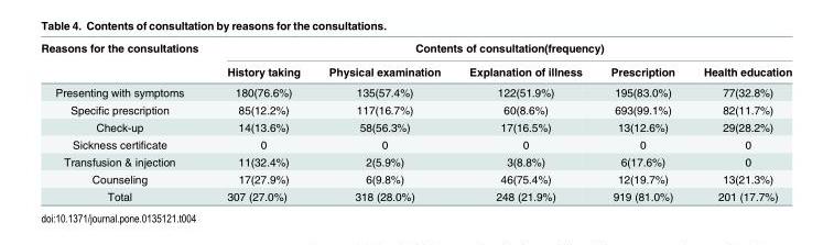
<table><thead><tr><td rowspan="2">Reasons for the consultations</td><td colspan="5">Contents of consultation(frequency)</td></tr><tr><td>History taking</td><td>Physical examination</td><td>Explanation of illness</td><td>Prescription</td><td>Health education</td></tr></thead><tbody><tr><td>Presenting with symptoms</td><td>180(76.6%)</td><td>135(57.4%)</td><td>122(51.9%)</td><td>195(83.0%)</td><td>77(32.8%)</td></tr><tr><td>Specific prescription</td><td>85(12.2%)</td><td>117(16.7%)</td><td>60(8.6%)</td><td>693(99.1%)</td><td>82(11.7%)</td></tr><tr><td>Check-up</td><td>14(13.6%)</td><td>58(56.3%)</td><td>17(16.5%)</td><td>13(12.6%)</td><td>29(28.2%)</td></tr><tr><td>Sickness certificate</td><td>0</td><td>0</td><td>0</td><td>0</td><td>0</td></tr><tr><td>Transfusion &amp; injection</td><td>11(32.4%)</td><td>2(5.9%)</td><td>3(8.8%)</td><td>6(17.6%)</td><td>0</td></tr><tr><td>Counseling</td><td>17(27.9%)</td><td>6(9.8%)</td><td>46(75.4%)</td><td>12(19.7%)</td><td>13(21.3%)</td></tr><tr><td>Total</td><td>307 (27.0%)</td><td>318 (28.0%)</td><td>248 (21.9%)</td><td>919 (81.0%)</td><td>201 (17.7%)</td></tr></tbody></table>